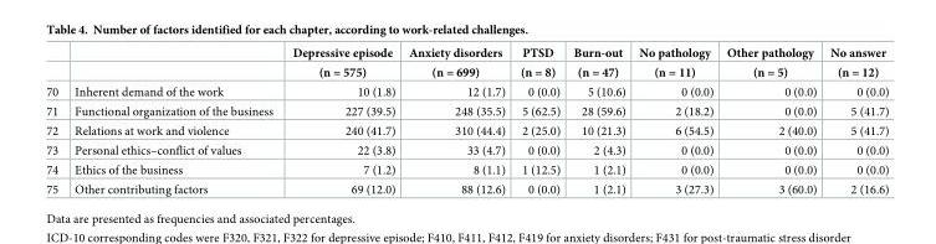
<table><thead><tr><td rowspan="2"></td><td rowspan="2"></td><td rowspan="2">Depressive episode (n = 575)</td><td rowspan="2">Anxiety disorders (n = 699)</td><td rowspan="2">PTSD (n = 8)</td><td rowspan="2">Burn-out (n = 47)</td><td rowspan="2">No pathology (n = 11)</td><td rowspan="2">Other pathology (n = 5)</td><td rowspan="2">No answer (n = 12)</td></tr><tr></tr></thead><tbody><tr><td>70</td><td>Inherent demand of the work</td><td>10 (1.8)</td><td>12 (1.7)</td><td>0 (0.0)</td><td>5 (10.6)</td><td>0 (0.0)</td><td>0 (0.0)</td><td>0 (0.0)</td></tr><tr><td>71</td><td>Functional organization of the business</td><td>227 (39.5)</td><td>248 (35.5)</td><td>5 (62.5)</td><td>28 (59.6)</td><td>2 (18.2)</td><td>0 (0.0)</td><td>5 (41.7)</td></tr><tr><td>72</td><td>Relations at work and violence</td><td>240 (41.7)</td><td>310 (44.4)</td><td>2 (25.0)</td><td>10 (21.3)</td><td>6 (54.5)</td><td>2 (40.0)</td><td>5 (41.7)</td></tr><tr><td>73</td><td>Personal ethics–conflict of values</td><td>22 (3.8)</td><td>33 (4.7)</td><td>0 (0.0)</td><td>2 (4.3)</td><td>0 (0.0)</td><td>0 (0.0)</td><td>0 (0.0)</td></tr><tr><td>74</td><td>Ethics of the business</td><td>7 (1.2)</td><td>8 (1.1)</td><td>1 (12.5)</td><td>1 (2.1)</td><td>0 (0.0)</td><td>0 (0.0)</td><td>0 (0.0)</td></tr><tr><td>75</td><td>Other contributing factors</td><td>69 (12.0)</td><td>88 (12.6)</td><td>0 (0.0)</td><td>1 (2.1)</td><td>3 (27.3)</td><td>3 (60.0)</td><td>2 (16.6)</td></tr></tbody></table>